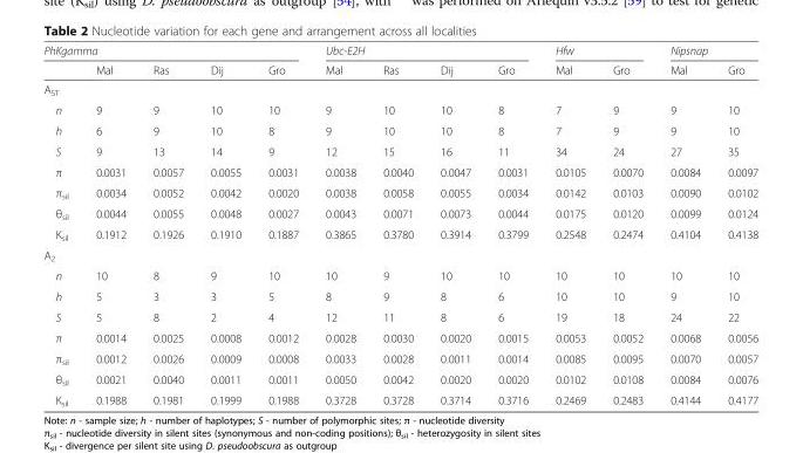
<table><thead><tr><td colspan="5">PhKgamma</td><td colspan="4">Ubc-E2H</td><td colspan="2">Hfw</td><td colspan="2">Nipsnap</td></tr><tr><td></td><td>Mal</td><td>Ras</td><td>Dij</td><td>Gro</td><td>Mal</td><td>Ras</td><td>Dij</td><td>Gro</td><td>Mal</td><td>Gro</td><td>Mal</td><td>Gro</td></tr></thead><tbody><tr><td colspan="13">A<sub>ST</sub></td></tr><tr><td>n</td><td>9</td><td>9</td><td>10</td><td>10</td><td>9</td><td>10</td><td>10</td><td>8</td><td>7</td><td>9</td><td>9</td><td>10</td></tr><tr><td>h</td><td>6</td><td>9</td><td>10</td><td>8</td><td>9</td><td>10</td><td>10</td><td>8</td><td>7</td><td>9</td><td>9</td><td>10</td></tr><tr><td>S</td><td>9</td><td>13</td><td>14</td><td>9</td><td>12</td><td>15</td><td>16</td><td>11</td><td>34</td><td>24</td><td>27</td><td>35</td></tr><tr><td>π</td><td>0.0031</td><td>0.0057</td><td>0.0055</td><td>0.0031</td><td>0.0038</td><td>0.0040</td><td>0.0047</td><td>0.0031</td><td>0.0105</td><td>0.0070</td><td>0.0084</td><td>0.0097</td></tr><tr><td>π<sub>sil</sub></td><td>0.0034</td><td>0.0052</td><td>0.0042</td><td>0.0020</td><td>0.0038</td><td>0.0058</td><td>0.0055</td><td>0.0034</td><td>0.0142</td><td>0.0103</td><td>0.0090</td><td>0.0102</td></tr><tr><td>θ<sub>sil</sub></td><td>0.0044</td><td>0.0055</td><td>0.0048</td><td>0.0027</td><td>0.0043</td><td>0.0071</td><td>0.0073</td><td>0.0044</td><td>0.0175</td><td>0.0120</td><td>0.0099</td><td>0.0124</td></tr><tr><td>K<sub>sil</sub></td><td>0.1912</td><td>0.1926</td><td>0.1910</td><td>0.1887</td><td>0.3865</td><td>0.3780</td><td>0.3914</td><td>0.3799</td><td>0.2548</td><td>0.2474</td><td>0.4104</td><td>0.4138</td></tr><tr><td colspan="13">A<sub>2</sub></td></tr><tr><td>n</td><td>10</td><td>8</td><td>9</td><td>10</td><td>10</td><td>9</td><td>10</td><td>10</td><td>10</td><td>10</td><td>10</td><td>10</td></tr><tr><td>h</td><td>5</td><td>3</td><td>3</td><td>5</td><td>8</td><td>9</td><td>8</td><td>6</td><td>10</td><td>10</td><td>9</td><td>10</td></tr><tr><td>S</td><td>5</td><td>8</td><td>2</td><td>4</td><td>12</td><td>11</td><td>8</td><td>6</td><td>19</td><td>18</td><td>24</td><td>22</td></tr><tr><td>π</td><td>0.0014</td><td>0.0025</td><td>0.0008</td><td>0.0012</td><td>0.0028</td><td>0.0030</td><td>0.0020</td><td>0.0015</td><td>0.0053</td><td>0.0052</td><td>0.0068</td><td>0.0056</td></tr><tr><td>π<sub>sil</sub></td><td>0.0012</td><td>0.0026</td><td>0.0009</td><td>0.0008</td><td>0.0033</td><td>0.0028</td><td>0.0011</td><td>0.0014</td><td>0.0085</td><td>0.0095</td><td>0.0070</td><td>0.0057</td></tr><tr><td>θ<sub>sil</sub></td><td>0.0021</td><td>0.0040</td><td>0.0011</td><td>0.0011</td><td>0.0050</td><td>0.0042</td><td>0.0020</td><td>0.0020</td><td>0.0102</td><td>0.0108</td><td>0.0084</td><td>0.0076</td></tr><tr><td>K<sub>sil</sub></td><td>0.1988</td><td>0.1981</td><td>0.1999</td><td>0.1988</td><td>0.3728</td><td>0.3728</td><td>0.3714</td><td>0.3716</td><td>0.2469</td><td>0.2483</td><td>0.4144</td><td>0.4177</td></tr></tbody></table>